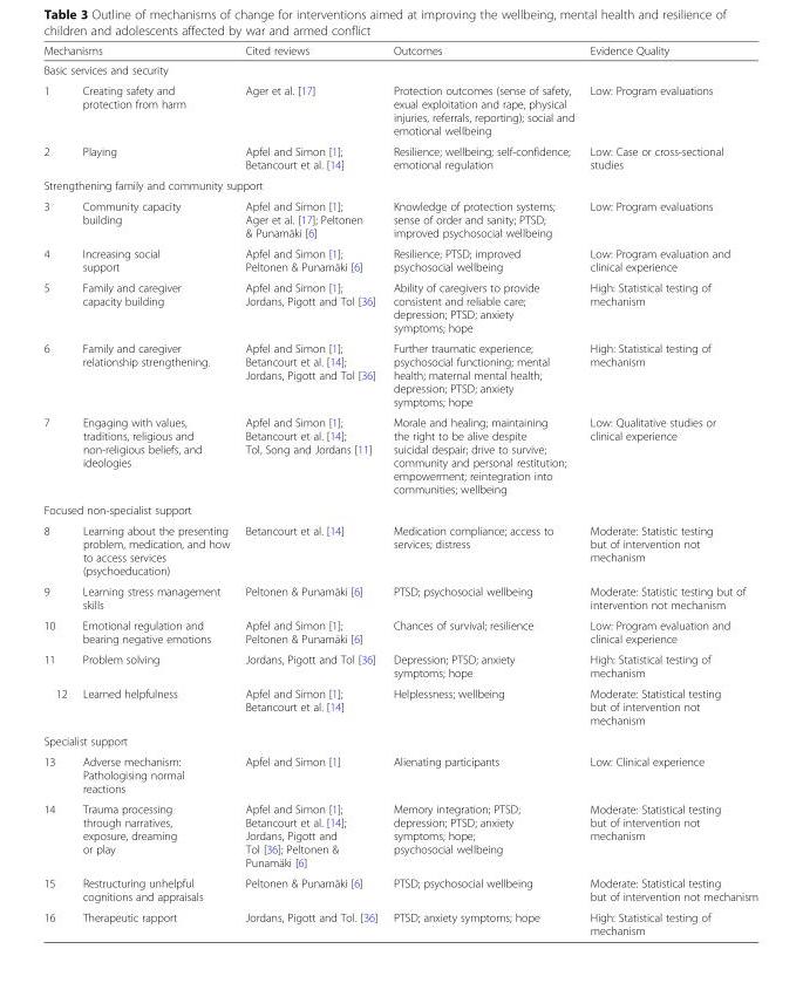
<table><thead><tr><td colspan="2">Mechanisms</td><td>Cited reviews</td><td>Outcomes</td><td>Evidence Quality</td></tr><tr><td colspan="5">Basic services and security</td></tr><tr><td>1</td><td>Creating safety and protection from harm</td><td>Ager et al. [17]</td><td>Protection outcomes (sense of safety, exual exploitation and rape, physical injuries, referrals, reporting); social and emotional wellbeing</td><td>Low: Program evaluations</td></tr></thead><tbody><tr><td>2</td><td>Playing</td><td>Apfel and Simon [1]; Betancourt et al. [14]</td><td>Resilience; wellbeing; self-confidence; emotional regulation</td><td>Low: Case or cross-sectional studies</td></tr><tr><td colspan="5">Strengthening family and community support</td></tr><tr><td>3</td><td>Community capacity building</td><td>Apfel and Simon [1]; Ager et al. [17]; Peltonen &amp; Punamäki [6]</td><td>Knowledge of protection systems; sense of order and sanity; PTSD; improved psychosocial wellbeing</td><td>Low: Program evaluations</td></tr><tr><td>4</td><td>Increasing social support</td><td>Apfel and Simon [1]; Peltonen &amp; Punamäki [6]</td><td>Resilience; PTSD; improved psychosocial wellbeing</td><td>Low: Program evaluation and clinical experience</td></tr><tr><td>5</td><td>Family and caregiver capacity building</td><td>Apfel and Simon [1]; Jordans, Pigott and Tol [36]</td><td>Ability of caregivers to provide consistent and reliable care; depression; PTSD; anxiety symptoms; hope</td><td>High: Statistical testing of mechanism</td></tr><tr><td>6</td><td>Family and caregiver relationship strengthening.</td><td>Apfel and Simon [1]; Betancourt et al. [14]; Jordans, Pigott and Tol [36]</td><td>Further traumatic experience; psychosocial functioning; mental health; maternal mental health; depression; PTSD; anxiety symptoms; hope</td><td>High: Statistical testing of mechanism</td></tr><tr><td>7</td><td>Engaging with values, traditions, religious and non-religious beliefs, and ideologies</td><td>Apfel and Simon [1]; Betancourt et al. [14]; Tol, Song and Jordans [11]</td><td>Morale and healing; maintaining the right to be alive despite suicidal despair; drive to survive; community and personal restitution; empowerment; reintegration into communities; wellbeing</td><td>Low: Qualitative studies or clinical experience</td></tr><tr><td colspan="5">Focused non-specialist support</td></tr><tr><td>8</td><td>Learning about the presenting problem, medication, and how to access services (psychoeducation)</td><td>Betancourt et al. [14]</td><td>Medication compliance; access to services; distress</td><td>Moderate: Statistic testing but of intervention not mechanism</td></tr><tr><td>9</td><td>Learning stress management skills</td><td>Peltonen &amp; Punamäki [6]</td><td>PTSD; psychosocial wellbeing</td><td>Moderate: Statistic testing but of intervention not mechanism</td></tr><tr><td>10</td><td>Emotional regulation and bearing negative emotions</td><td>Apfel and Simon [1]; Peltonen &amp; Punamäki [6]</td><td>Chances of survival; resilience</td><td>Low: Program evaluation and clinical experience</td></tr><tr><td>11</td><td>Problem solving</td><td>Jordans, Pigott and Tol [36]</td><td>Depression; PTSD; anxiety symptoms; hope</td><td>High: Statistical testing of mechanism</td></tr><tr><td>12</td><td>Learned helpfulness</td><td>Apfel and Simon [1]; Betancourt et al. [14]</td><td>Helplessness; wellbeing</td><td>Moderate: Statistical testing but of intervention not mechanism</td></tr><tr><td colspan="5">Specialist support</td></tr><tr><td>13</td><td>Adverse mechanism: Pathologising normal reactions</td><td>Apfel and Simon [1]</td><td>Alienating participants</td><td>Low: Clinical experience</td></tr><tr><td>14</td><td>Trauma processing through narratives, exposure, dreaming or play</td><td>Apfel and Simon [1]; Betancourt et al. [14]; Jordans, Pigott and Tol [36]; Peltonen &amp; Punamäki [6]</td><td>Memory integration; PTSD; depression; PTSD; anxiety symptoms; hope; psychosocial wellbeing</td><td>Moderate: Statistical testing but of intervention not mechanism</td></tr><tr><td>15</td><td>Restructuring unhelpful cognitions and appraisals</td><td>Peltonen &amp; Punamäki [6]</td><td>PTSD; psychosocial wellbeing</td><td>Moderate: Statistical testing but of intervention not mechanism</td></tr><tr><td>16</td><td>Therapeutic rapport</td><td>Jordans, Pigott and Tol. [36]</td><td>PTSD; anxiety symptoms; hope</td><td>High: Statistical testing of mechanism</td></tr></tbody></table>